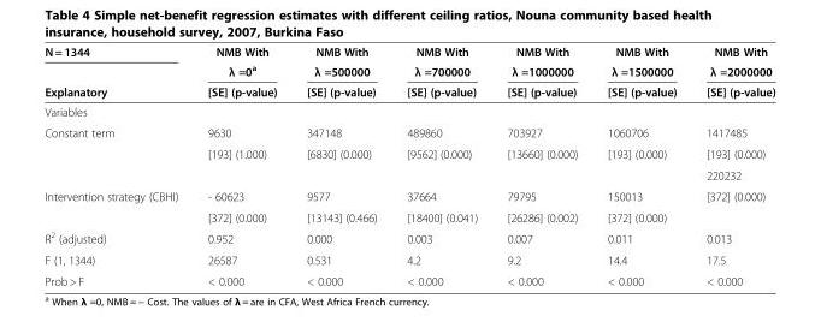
<table><thead><tr><td rowspan="3">N = 1344 Explanatory</td><td rowspan="3">NMB With λ =0<sup>a</sup> [SE] (p-value)</td><td rowspan="3">NMB With λ =500000 [SE] (p-value)</td><td rowspan="3">NMB With λ =700000 [SE] (p-value)</td><td rowspan="3">NMB With λ =1000000 [SE] (p-value)</td><td rowspan="3">NMB With λ =1500000 [SE] (p-value)</td><td rowspan="3">NMB With λ =2000000 [SE] (p-value)</td></tr><tr></tr><tr></tr></thead><tbody><tr><td colspan="7">Variables</td></tr><tr><td rowspan="3">Constant term</td><td>9630</td><td>347148</td><td>489860</td><td>703927</td><td>1060706</td><td>1417485</td></tr><tr><td>[193] (1.000)</td><td>[6830] (0.000)</td><td>[9562] (0.000)</td><td>[13660] (0.000)</td><td>[193] (0.000)</td><td>[193] (0.000)</td></tr><tr><td></td><td></td><td></td><td></td><td></td><td>220232</td></tr><tr><td rowspan="2">Intervention strategy (CBHI)</td><td>- 60623</td><td>9577</td><td>37664</td><td>79795</td><td>150013</td><td>[372] (0.000)</td></tr><tr><td>[372] (0.000)</td><td>[13143] (0.466)</td><td>[18400] (0.041)</td><td>[26286] (0.002)</td><td>[372] (0.000)</td><td></td></tr><tr><td>R<sup>2</sup> (adjusted)</td><td>0.952</td><td>0.000</td><td>0.003</td><td>0.007</td><td>0.011</td><td>0.013</td></tr><tr><td>F (1, 1344)</td><td>26587</td><td>0.531</td><td>4.2</td><td>9.2</td><td>14.4</td><td>17.5</td></tr><tr><td>Prob &gt; F</td><td>&lt; 0.000</td><td>&lt; 0.000</td><td>&lt; 0.000</td><td>&lt; 0.000</td><td>&lt; 0.000</td><td>&lt; 0.000</td></tr></tbody></table>